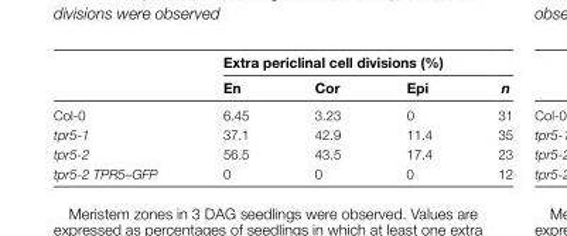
<table><thead><tr><td rowspan="2"></td><td colspan="3">Extra periclinal cell divisions (%)</td><td rowspan="2">n</td></tr><tr><td>En</td><td>Cor</td><td>Epi</td></tr></thead><tbody><tr><td>Col-0</td><td>6.45</td><td>3.23</td><td>0</td><td>31</td></tr><tr><td>tpr5-1</td><td>37.1</td><td>42.9</td><td>11.4</td><td>35</td></tr><tr><td>tpr5-2</td><td>56.5</td><td>43.5</td><td>17.4</td><td>23</td></tr><tr><td>tpr5-2 TPR5–GFP</td><td>0</td><td>0</td><td>0</td><td>12</td></tr></tbody></table>